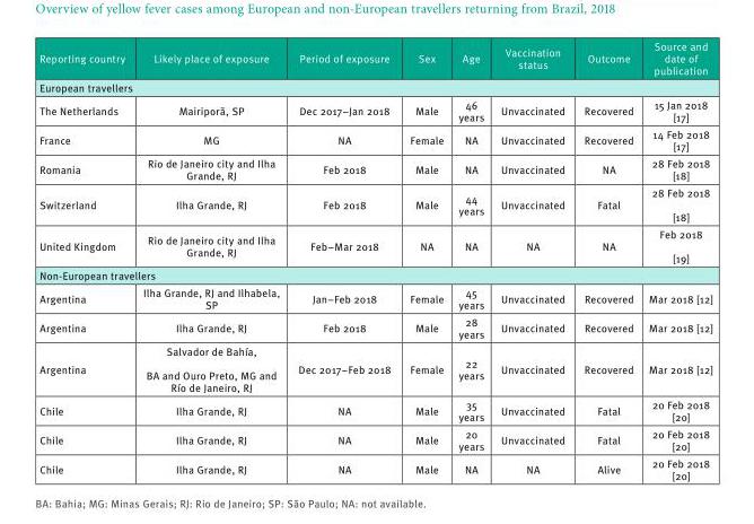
<table><thead><tr><td>Reporting country</td><td>Likely place of exposure</td><td>Period of exposure</td><td>Sex</td><td>Age</td><td>Vaccination status</td><td>Outcome</td><td>Source and date of publication</td></tr></thead><tbody><tr><td colspan="8">European travellers</td></tr><tr><td>The Netherlands</td><td>Mairiporã, SP</td><td>Dec 2017–Jan 2018</td><td>Male</td><td>46 years</td><td>Unvaccinated</td><td>Recovered</td><td>15 Jan 2018 [17]</td></tr><tr><td>France</td><td>MG</td><td>NA</td><td>Female</td><td>NA</td><td>Unvaccinated</td><td>Recovered</td><td>14 Feb 2018 [17]</td></tr><tr><td>Romania</td><td>Rio de Janeiro city and Ilha Grande, RJ</td><td>Feb 2018</td><td>Male</td><td>NA</td><td>Unvaccinated</td><td>NA</td><td>28 Feb 2018 [18]</td></tr><tr><td>Switzerland</td><td>Ilha Grande, RJ</td><td>Feb 2018</td><td>Male</td><td>44 years</td><td>Unvaccinated</td><td>Fatal</td><td>28 Feb 2018 [18]</td></tr><tr><td>United Kingdom</td><td>Rio de Janeiro city and Ilha Grande, RJ</td><td>Feb–Mar 2018</td><td>NA</td><td>NA</td><td>NA</td><td>NA</td><td>Feb 2018 [19]</td></tr><tr><td colspan="8">Non-European travellers</td></tr><tr><td>Argentina</td><td>Ilha Grande, RJ and Ilhabela, SP</td><td>Jan–Feb 2018</td><td>Female</td><td>45 years</td><td>Unvaccinated</td><td>Recovered</td><td>Mar 2018 [12]</td></tr><tr><td>Argentina</td><td>Ilha Grande, RJ</td><td>Feb 2018</td><td>Male</td><td>28 years</td><td>Unvaccinated</td><td>Recovered</td><td>Mar 2018 [12]</td></tr><tr><td>Argentina</td><td>Salvador de Bahía, BA and Ouro Preto, MG and Río de Janeiro, RJ</td><td>Dec 2017–Feb 2018</td><td>Female</td><td>22 years</td><td>Unvaccinated</td><td>Recovered</td><td>Mar 2018 [12]</td></tr><tr><td>Chile</td><td>Ilha Grande, RJ</td><td>NA</td><td>Male</td><td>35 years</td><td>Unvaccinated</td><td>Fatal</td><td>20 Feb 2018 [20]</td></tr><tr><td>Chile</td><td>Ilha Grande, RJ</td><td>NA</td><td>Male</td><td>20 years</td><td>Unvaccinated</td><td>Fatal</td><td>20 Feb 2018 [20]</td></tr><tr><td>Chile</td><td>Ilha Grande, RJ</td><td>NA</td><td>Male</td><td>NA</td><td>NA</td><td>Alive</td><td>20 Feb 2018 [20]</td></tr></tbody></table>